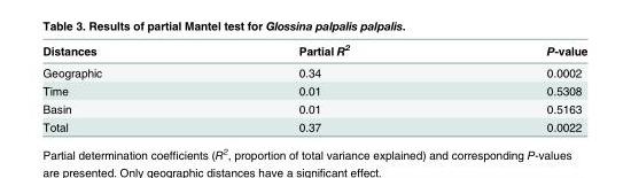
<table><thead><tr><td>Distances</td><td>Partial R<sup>2</sup></td><td>P-value</td></tr></thead><tbody><tr><td>Geographic</td><td>0.34</td><td>0.0002</td></tr><tr><td>Time</td><td>0.01</td><td>0.5308</td></tr><tr><td>Basin</td><td>0.01</td><td>0.5163</td></tr><tr><td>Total</td><td>0.37</td><td>0.0022</td></tr></tbody></table>